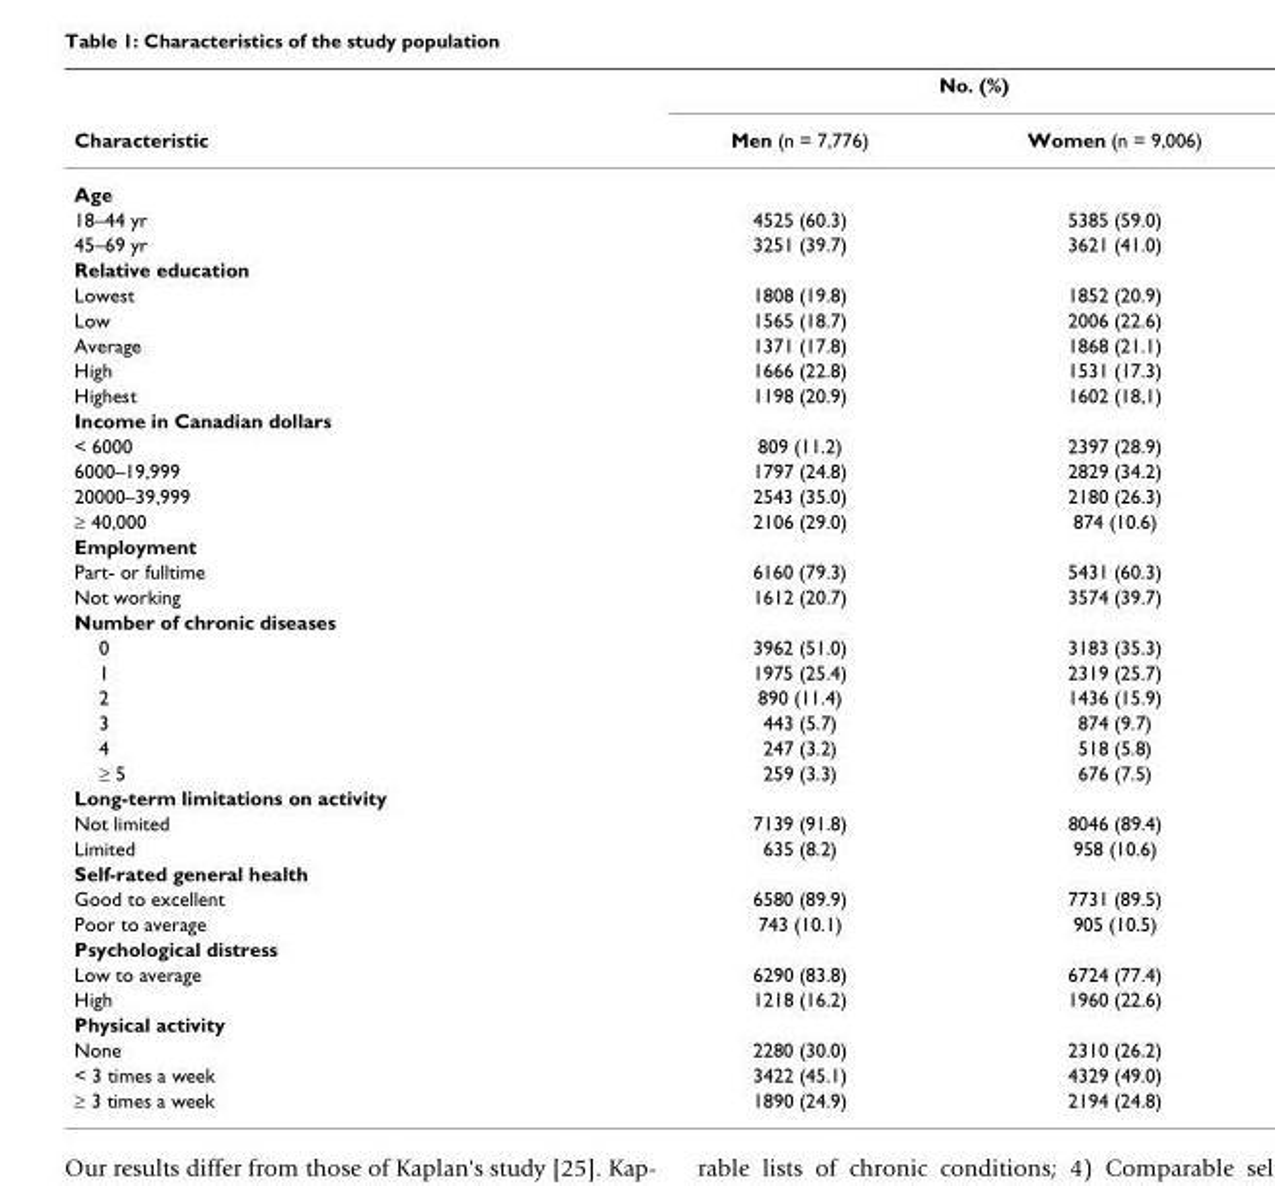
<table><thead><tr><td rowspan="2">Characteristic</td><td colspan="2">No. (%)</td></tr><tr><td>Men (n = 7,776)</td><td>Women (n = 9,006)</td></tr></thead><tbody><tr><td colspan="3">Age</td></tr><tr><td>18–44 yr</td><td>4525 (60.3)</td><td>5385 (59.0)</td></tr><tr><td>45–69 yr</td><td>3251 (39.7)</td><td>3621 (41.0)</td></tr><tr><td colspan="3">Relative education</td></tr><tr><td>Lowest</td><td>1808 (19.8)</td><td>1852 (20.9)</td></tr><tr><td>Low</td><td>1565 (18.7)</td><td>2006 (22.6)</td></tr><tr><td>Average</td><td>1371 (17.8)</td><td>1868 (21.1)</td></tr><tr><td>High</td><td>1666 (22.8)</td><td>1531 (17.3)</td></tr><tr><td>Highest</td><td>1198 (20.9)</td><td>1602 (18,1)</td></tr><tr><td colspan="3">Income in Canadian dollars</td></tr><tr><td>&lt; 6000</td><td>809 (11.2)</td><td>2397 (28.9)</td></tr><tr><td>6000–19,999</td><td>1797 (24.8)</td><td>2829 (34.2)</td></tr><tr><td>20000–39,999</td><td>2543 (35.0)</td><td>2180 (26.3)</td></tr><tr><td>≥ 40,000</td><td>2106 (29.0)</td><td>874 (10.6)</td></tr><tr><td colspan="3">Employment</td></tr><tr><td>Part- or fulltime</td><td>6160 (79.3)</td><td>5431 (60.3)</td></tr><tr><td>Not working</td><td>1612 (20.7)</td><td>3574 (39.7)</td></tr><tr><td colspan="3">Number of chronic diseases</td></tr><tr><td>0</td><td>3962 (51.0)</td><td>3183 (35.3)</td></tr><tr><td>1</td><td>1975 (25.4)</td><td>2319 (25.7)</td></tr><tr><td>2</td><td>890 (11.4)</td><td>1436 (15.9)</td></tr><tr><td>3</td><td>443 (5.7)</td><td>874 (9.7)</td></tr><tr><td>4</td><td>247 (3.2)</td><td>518 (5.8)</td></tr><tr><td>≥ 5</td><td>259 (3.3)</td><td>676 (7.5)</td></tr><tr><td colspan="3">Long-term limitations on activity</td></tr><tr><td>Not limited</td><td>7139 (91.8)</td><td>8046 (89.4)</td></tr><tr><td>Limited</td><td>635 (8.2)</td><td>958 (10.6)</td></tr><tr><td colspan="3">Self-rated general health</td></tr><tr><td>Good to excellent</td><td>6580 (89.9)</td><td>7731 (89.5)</td></tr><tr><td>Poor to average</td><td>743 (10.1)</td><td>905 (10.5)</td></tr><tr><td colspan="3">Psychological distress</td></tr><tr><td>Low to average</td><td>6290 (83.8)</td><td>6724 (77.4)</td></tr><tr><td>High</td><td>1218 (16.2)</td><td>1960 (22.6)</td></tr><tr><td colspan="3">Physical activity</td></tr><tr><td>None</td><td>2280 (30.0)</td><td>2310 (26.2)</td></tr><tr><td>&lt; 3 times a week</td><td>3422 (45.1)</td><td>4329 (49.0)</td></tr><tr><td>≥ 3 times a week</td><td>1890 (24.9)</td><td>2194 (24.8)</td></tr></tbody></table>